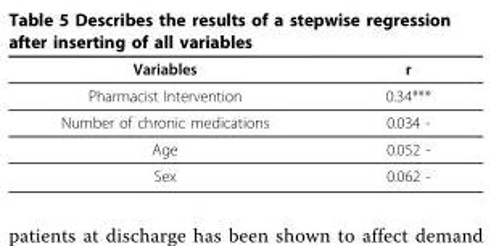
<table><thead><tr><td>Variables</td><td>r</td></tr></thead><tbody><tr><td>Pharmacist Intervention</td><td>0.34***</td></tr><tr><td>Number of chronic medications</td><td>0.034 -</td></tr><tr><td>Age</td><td>0.052 -</td></tr><tr><td>Sex</td><td>0.062 -</td></tr></tbody></table>